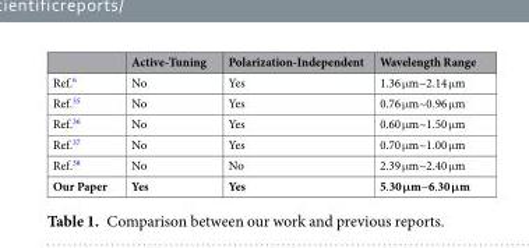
<table><thead><tr><td></td><td>Active-Tuning</td><td>Polarization-Independent</td><td>Wavelength Range</td></tr></thead><tbody><tr><td>Ref.<sup>6</sup></td><td>No</td><td>Yes</td><td>1.36 μm~2.14 μm</td></tr><tr><td>Ref.<sup>35</sup></td><td>No</td><td>Yes</td><td>0.76 μm~0.96 μm</td></tr><tr><td>Ref.<sup>36</sup></td><td>No</td><td>Yes</td><td>0.60 μm~1.50 μm</td></tr><tr><td>Ref.<sup>37</sup></td><td>No</td><td>Yes</td><td>0.70 μm~1.00 μm</td></tr><tr><td>Ref.<sup>38</sup></td><td>No</td><td>No</td><td>2.39 μm~2.40 μm</td></tr><tr><td>Our Paper</td><td>Yes</td><td>Yes</td><td>5.30 μm~6.30 μm</td></tr></tbody></table>